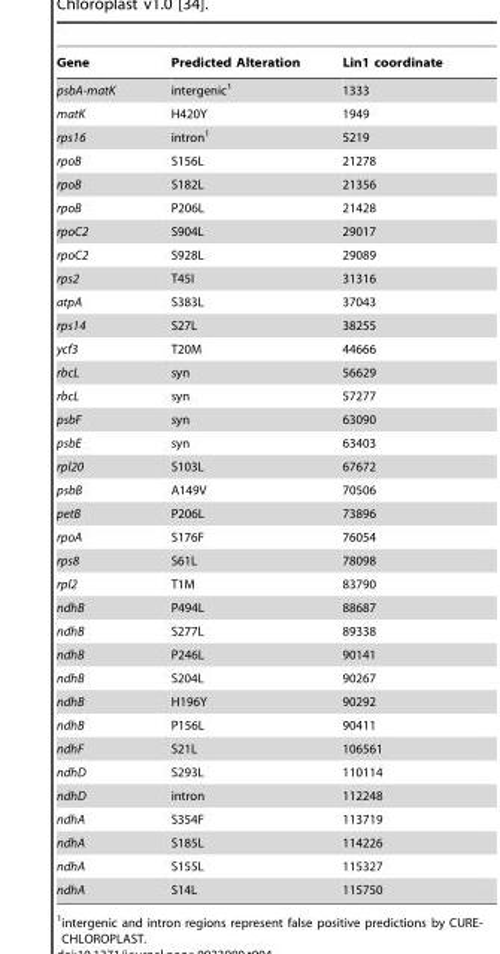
<table><thead><tr><td>Gene</td><td>Predicted Alteration</td><td>Lin1 coordinate</td></tr></thead><tbody><tr><td>psbA-matK</td><td>intergenic<sup>1</sup></td><td>1333</td></tr><tr><td>matK</td><td>H420Y</td><td>1949</td></tr><tr><td>rps16</td><td>intron<sup>1</sup></td><td>5219</td></tr><tr><td>rpoB</td><td>S156L</td><td>21278</td></tr><tr><td>rpoB</td><td>S182L</td><td>21356</td></tr><tr><td>rpoB</td><td>P206L</td><td>21428</td></tr><tr><td>rpoC2</td><td>S904L</td><td>29017</td></tr><tr><td>rpoC2</td><td>S928L</td><td>29089</td></tr><tr><td>rps2</td><td>T45I</td><td>31316</td></tr><tr><td>atpA</td><td>S383L</td><td>37043</td></tr><tr><td>rps14</td><td>S27L</td><td>38255</td></tr><tr><td>ycf3</td><td>T20M</td><td>44666</td></tr><tr><td>rbcL</td><td>syn</td><td>56629</td></tr><tr><td>rbcL</td><td>syn</td><td>57277</td></tr><tr><td>psbF</td><td>syn</td><td>63090</td></tr><tr><td>psbE</td><td>syn</td><td>63403</td></tr><tr><td>rpl20</td><td>S103L</td><td>67672</td></tr><tr><td>psbB</td><td>A149V</td><td>70506</td></tr><tr><td>petB</td><td>P206L</td><td>73896</td></tr><tr><td>rpoA</td><td>S176F</td><td>76054</td></tr><tr><td>rps8</td><td>S61L</td><td>78098</td></tr><tr><td>rpl2</td><td>T1M</td><td>83790</td></tr><tr><td>ndhB</td><td>P494L</td><td>88687</td></tr><tr><td>ndhB</td><td>S277L</td><td>89338</td></tr><tr><td>ndhB</td><td>P246L</td><td>90141</td></tr><tr><td>ndhB</td><td>S204L</td><td>90267</td></tr><tr><td>ndhB</td><td>H196Y</td><td>90292</td></tr><tr><td>ndhB</td><td>P156L</td><td>90411</td></tr><tr><td>ndhF</td><td>S21L</td><td>106561</td></tr><tr><td>ndhD</td><td>S293L</td><td>110114</td></tr><tr><td>ndhD</td><td>intron</td><td>112248</td></tr><tr><td>ndhA</td><td>S354F</td><td>113719</td></tr><tr><td>ndhA</td><td>S185L</td><td>114226</td></tr><tr><td>ndhA</td><td>S155L</td><td>115327</td></tr><tr><td>ndhA</td><td>S14L</td><td>115750</td></tr></tbody></table>